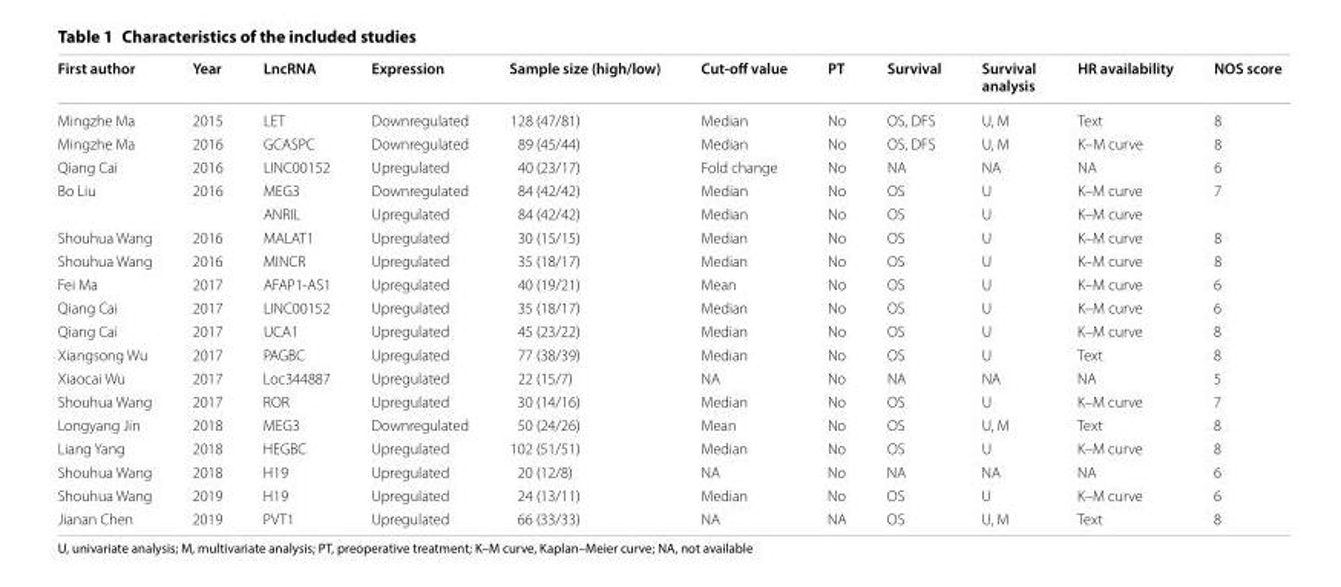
<table><thead><tr><td>First author</td><td>Year</td><td>LncRNA</td><td>Expression</td><td>Sample size (high/low)</td><td>Cut-off value</td><td>PT</td><td>Survival</td><td>Survival analysis</td><td>HR availability</td><td>NOS score</td></tr></thead><tbody><tr><td>Mingzhe Ma</td><td>2015</td><td>LET</td><td>Downregulated</td><td>128 (47/81)</td><td>Median</td><td>No</td><td>OS, DFS</td><td>U, M</td><td>Text</td><td>8</td></tr><tr><td>Mingzhe Ma</td><td>2016</td><td>GCASPC</td><td>Downregulated</td><td>89 (45/44)</td><td>Median</td><td>No</td><td>OS, DFS</td><td>U, M</td><td>K–M curve</td><td>8</td></tr><tr><td>Qiang Cai</td><td>2016</td><td>LINC00152</td><td>Upregulated</td><td>40 (23/17)</td><td>Fold change</td><td>No</td><td>NA</td><td>NA</td><td>NA</td><td>6</td></tr><tr><td rowspan="2">Bo Liu</td><td rowspan="2">2016</td><td>MEG3</td><td>Downregulated</td><td>84 (42/42)</td><td>Median</td><td>No</td><td>OS</td><td>U</td><td>K–M curve</td><td rowspan="2">7</td></tr><tr><td>ANRIL</td><td>Upregulated</td><td>84 (42/42)</td><td>Median</td><td>No</td><td>OS</td><td>U</td><td>K–M curve</td></tr><tr><td>Shouhua Wang</td><td>2016</td><td>MALAT1</td><td>Upregulated</td><td>30 (15/15)</td><td>Median</td><td>No</td><td>OS</td><td>U</td><td>K–M curve</td><td>8</td></tr><tr><td>Shouhua Wang</td><td>2016</td><td>MINCR</td><td>Upregulated</td><td>35 (18/17)</td><td>Median</td><td>No</td><td>OS</td><td>U</td><td>K–M curve</td><td>8</td></tr><tr><td>Fei Ma</td><td>2017</td><td>AFAP1-AS1</td><td>Upregulated</td><td>40 (19/21)</td><td>Mean</td><td>No</td><td>OS</td><td>U</td><td>K–M curve</td><td>6</td></tr><tr><td>Qiang Cai</td><td>2017</td><td>LINC00152</td><td>Upregulated</td><td>35 (18/17)</td><td>Median</td><td>No</td><td>OS</td><td>U</td><td>K–M curve</td><td>6</td></tr><tr><td>Qiang Cai</td><td>2017</td><td>UCA1</td><td>Upregulated</td><td>45 (23/22)</td><td>Median</td><td>No</td><td>OS</td><td>U</td><td>K–M curve</td><td>8</td></tr><tr><td>Xiangsong Wu</td><td>2017</td><td>PAGBC</td><td>Upregulated</td><td>77 (38/39)</td><td>Median</td><td>No</td><td>OS</td><td>U</td><td>Text</td><td>8</td></tr><tr><td>Xiaocai Wu</td><td>2017</td><td>Loc344887</td><td>Upregulated</td><td>22 (15/7)</td><td>NA</td><td>No</td><td>NA</td><td>NA</td><td>NA</td><td>5</td></tr><tr><td>Shouhua Wang</td><td>2017</td><td>ROR</td><td>Upregulated</td><td>30 (14/16)</td><td>Median</td><td>No</td><td>OS</td><td>U</td><td>K–M curve</td><td>7</td></tr><tr><td>Longyang Jin</td><td>2018</td><td>MEG3</td><td>Downregulated</td><td>50 (24/26)</td><td>Mean</td><td>No</td><td>OS</td><td>U, M</td><td>Text</td><td>8</td></tr><tr><td>Liang Yang</td><td>2018</td><td>HEGBC</td><td>Upregulated</td><td>102 (51/51)</td><td>Median</td><td>No</td><td>OS</td><td>U</td><td>K–M curve</td><td>8</td></tr><tr><td>Shouhua Wang</td><td>2018</td><td>H19</td><td>Upregulated</td><td>20 (12/8)</td><td>NA</td><td>No</td><td>NA</td><td>NA</td><td>NA</td><td>6</td></tr><tr><td>Shouhua Wang</td><td>2019</td><td>H19</td><td>Upregulated</td><td>24 (13/11)</td><td>Median</td><td>No</td><td>OS</td><td>U</td><td>K–M curve</td><td>6</td></tr><tr><td>Jianan Chen</td><td>2019</td><td>PVT1</td><td>Upregulated</td><td>66 (33/33)</td><td>NA</td><td>NA</td><td>OS</td><td>U, M</td><td>Text</td><td>8</td></tr></tbody></table>